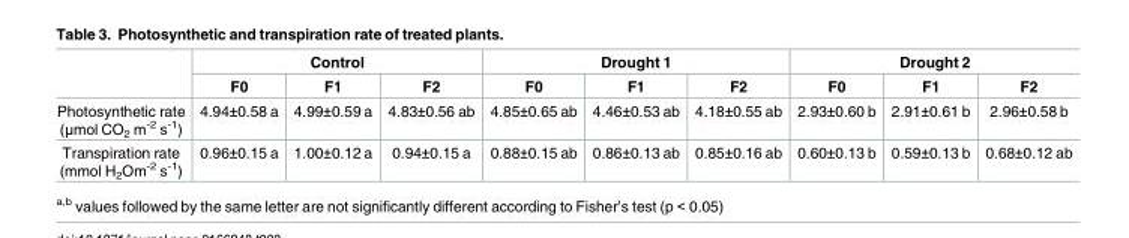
<table><thead><tr><td rowspan="2"></td><td colspan="3">Control</td><td colspan="3">Drought 1</td><td colspan="3">Drought 2</td></tr><tr><td>F0</td><td>F1</td><td>F2</td><td>F0</td><td>F1</td><td>F2</td><td>F0</td><td>F1</td><td>F2</td></tr></thead><tbody><tr><td>Photosynthetic rate (μmol CO<sub>2</sub> m<sup>-2</sup> s<sup>-1</sup>)</td><td>4.94±0.58 a</td><td>4.99±0.59 a</td><td>4.83±0.56 ab</td><td>4.85±0.65 ab</td><td>4.46±0.53 ab</td><td>4.18±0.55 ab</td><td>2.93±0.60 b</td><td>2.91±0.61 b</td><td>2.96±0.58 b</td></tr><tr><td>Transpiration rate (mmol H<sub>2</sub>Om<sup>-2</sup> s<sup>-1</sup>)</td><td>0.96±0.15 a</td><td>1.00±0.12 a</td><td>0.94±0.15 a</td><td>0.88±0.15 ab</td><td>0.86±0.13 ab</td><td>0.85±0.16 ab</td><td>0.60±0.13 b</td><td>0.59±0.13 b</td><td>0.68±0.12 ab</td></tr></tbody></table>